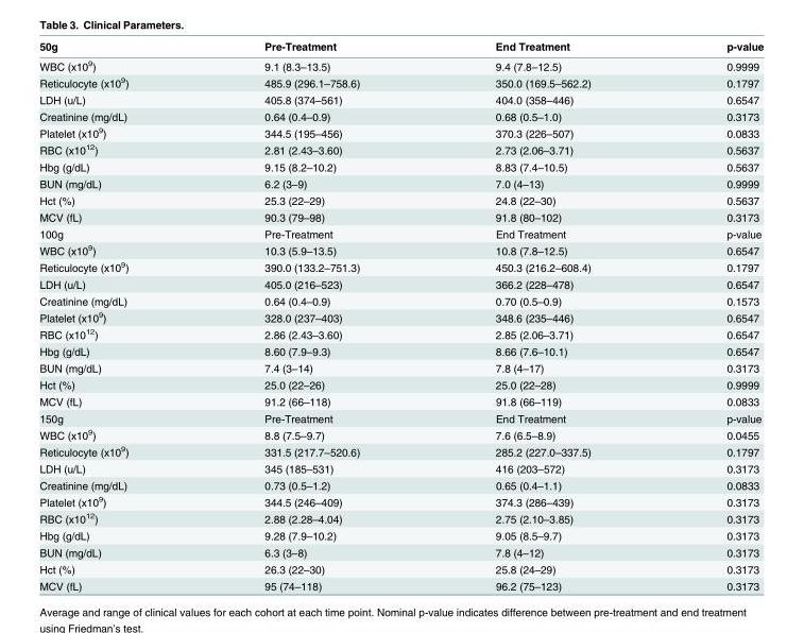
<table><tbody><tr><td>50g</td><td>Pre-Treatment</td><td>End Treatment</td><td>p-value</td></tr><tr><td>WBC (x10<sup>9</sup>)</td><td>9.1 (8.3–13.5)</td><td>9.4 (7.8–12.5)</td><td>0.9999</td></tr><tr><td>Reticulocyte (x10<sup>9</sup>)</td><td>485.9 (296.1–758.6)</td><td>350.0 (169.5–562.2)</td><td>0.1797</td></tr><tr><td>LDH (u/L)</td><td>405.8 (374–561)</td><td>404.0 (358–446)</td><td>0.6547</td></tr><tr><td>Creatinine (mg/dL)</td><td>0.64 (0.4–0.9)</td><td>0.68 (0.5–1.0)</td><td>0.3173</td></tr><tr><td>Platelet (x10<sup>9</sup>)</td><td>344.5 (195–456)</td><td>370.3 (226–507)</td><td>0.0833</td></tr><tr><td>RBC (x10<sup>12</sup>)</td><td>2.81 (2.43–3.60)</td><td>2.73 (2.06–3.71)</td><td>0.5637</td></tr><tr><td>Hbg (g/dL)</td><td>9.15 (8.2–10.2)</td><td>8.83 (7.4–10.5)</td><td>0.5637</td></tr><tr><td>BUN (mg/dL)</td><td>6.2 (3–9)</td><td>7.0 (4–13)</td><td>0.9999</td></tr><tr><td>Hct (%)</td><td>25.3 (22–29)</td><td>24.8 (22–30)</td><td>0.5637</td></tr><tr><td>MCV (fL)</td><td>90.3 (79–98)</td><td>91.8 (80–102)</td><td>0.3173</td></tr><tr><td>100g</td><td>Pre-Treatment</td><td>End Treatment</td><td>p-value</td></tr><tr><td>WBC (x10<sup>9</sup>)</td><td>10.3 (5.9–13.5)</td><td>10.8 (7.8–12.5)</td><td>0.6547</td></tr><tr><td>Reticulocyte (x10<sup>9</sup>)</td><td>390.0 (133.2–751.3)</td><td>450.3 (216.2–608.4)</td><td>0.1797</td></tr><tr><td>LDH (u/L)</td><td>405.0 (216–523)</td><td>366.2 (228–478)</td><td>0.6547</td></tr><tr><td>Creatinine (mg/dL)</td><td>0.64 (0.4–0.9)</td><td>0.70 (0.5–0.9)</td><td>0.1573</td></tr><tr><td>Platelet (x10<sup>9</sup>)</td><td>328.0 (237–403)</td><td>348.6 (235–446)</td><td>0.6547</td></tr><tr><td>RBC (x10<sup>12</sup>)</td><td>2.86 (2.43–3.60)</td><td>2.85 (2.06–3.71)</td><td>0.6547</td></tr><tr><td>Hbg (g/dL)</td><td>8.60 (7.9–9.3)</td><td>8.66 (7.6–10.1)</td><td>0.6547</td></tr><tr><td>BUN (mg/dL)</td><td>7.4 (3–14)</td><td>7.8 (4–17)</td><td>0.3173</td></tr><tr><td>Hct (%)</td><td>25.0 (22–26)</td><td>25.0 (22–28)</td><td>0.9999</td></tr><tr><td>MCV (fL)</td><td>91.2 (66–118)</td><td>91.8 (66–119)</td><td>0.0833</td></tr><tr><td>150g</td><td>Pre-Treatment</td><td>End Treatment</td><td>p-value</td></tr><tr><td>WBC (x10<sup>9</sup>)</td><td>8.8 (7.5–9.7)</td><td>7.6 (6.5–8.9)</td><td>0.0455</td></tr><tr><td>Reticulocyte (x10<sup>9</sup>)</td><td>331.5 (217.7–520.6)</td><td>285.2 (227.0–337.5)</td><td>0.1797</td></tr><tr><td>LDH (u/L)</td><td>345 (185–531)</td><td>416 (203–572)</td><td>0.3173</td></tr><tr><td>Creatinine (mg/dL)</td><td>0.73 (0.5–1.2)</td><td>0.65 (0.4–1.1)</td><td>0.0833</td></tr><tr><td>Platelet (x10<sup>9</sup>)</td><td>344.5 (246–409)</td><td>374.3 (286–439)</td><td>0.3173</td></tr><tr><td>RBC (x10<sup>12</sup>)</td><td>2.88 (2.28–4.04)</td><td>2.75 (2.10–3.85)</td><td>0.3173</td></tr><tr><td>Hbg (g/dL)</td><td>9.28 (7.9–10.2)</td><td>9.05 (8.5–9.7)</td><td>0.3173</td></tr><tr><td>BUN (mg/dL)</td><td>6.3 (3–8)</td><td>7.8 (4–12)</td><td>0.3173</td></tr><tr><td>Hct (%)</td><td>26.3 (22–30)</td><td>25.8 (24–29)</td><td>0.3173</td></tr><tr><td>MCV (fL)</td><td>95 (74–118)</td><td>96.2 (75–123)</td><td>0.3173</td></tr></tbody></table>